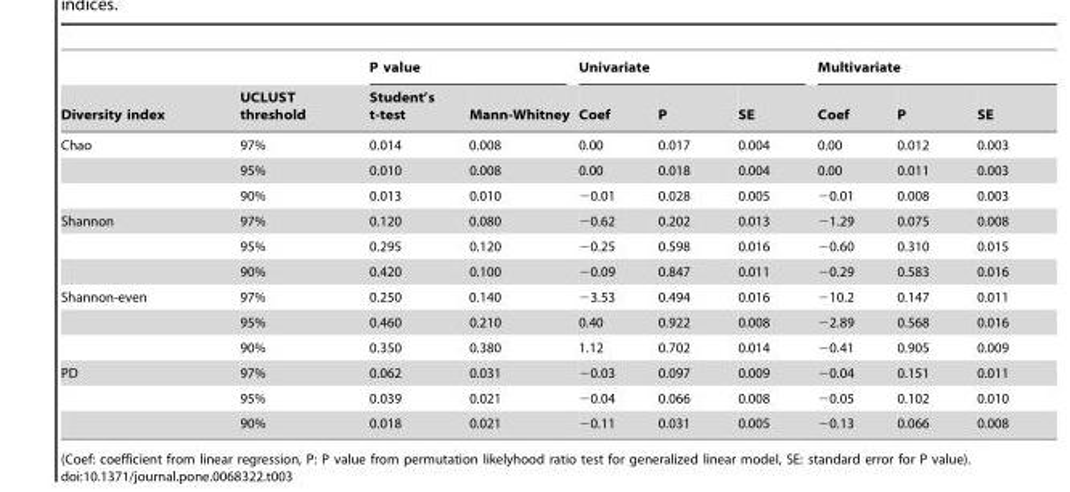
<table><thead><tr><td rowspan="2">Diversity index</td><td rowspan="2">UCLUST threshold</td><td colspan="2">P value</td><td colspan="3">Univariate</td><td colspan="3">Multivariate</td></tr><tr><td>Student’s t-test</td><td>Mann-Whitney</td><td>Coef</td><td>P</td><td>SE</td><td>Coef</td><td>P</td><td>SE</td></tr></thead><tbody><tr><td rowspan="3">Chao</td><td>97%</td><td>0.014</td><td>0.008</td><td>0.00</td><td>0.017</td><td>0.004</td><td>0.00</td><td>0.012</td><td>0.003</td></tr><tr><td>95%</td><td>0.010</td><td>0.008</td><td>0.00</td><td>0.018</td><td>0.004</td><td>0.00</td><td>0.011</td><td>0.003</td></tr><tr><td>90%</td><td>0.013</td><td>0.010</td><td>−0.01</td><td>0.028</td><td>0.005</td><td>−0.01</td><td>0.008</td><td>0.003</td></tr><tr><td rowspan="3">Shannon</td><td>97%</td><td>0.120</td><td>0.080</td><td>−0.62</td><td>0.202</td><td>0.013</td><td>−1.29</td><td>0.075</td><td>0.008</td></tr><tr><td>95%</td><td>0.295</td><td>0.120</td><td>−0.25</td><td>0.598</td><td>0.016</td><td>−0.60</td><td>0.310</td><td>0.015</td></tr><tr><td>90%</td><td>0.420</td><td>0.100</td><td>−0.09</td><td>0.847</td><td>0.011</td><td>−0.29</td><td>0.583</td><td>0.016</td></tr><tr><td rowspan="3">Shannon-even</td><td>97%</td><td>0.250</td><td>0.140</td><td>−3.53</td><td>0.494</td><td>0.016</td><td>−10.2</td><td>0.147</td><td>0.011</td></tr><tr><td>95%</td><td>0.460</td><td>0.210</td><td>0.40</td><td>0.922</td><td>0.008</td><td>−2.89</td><td>0.568</td><td>0.016</td></tr><tr><td>90%</td><td>0.350</td><td>0.380</td><td>1.12</td><td>0.702</td><td>0.014</td><td>−0.41</td><td>0.905</td><td>0.009</td></tr><tr><td rowspan="3">PD</td><td>97%</td><td>0.062</td><td>0.031</td><td>−0.03</td><td>0.097</td><td>0.009</td><td>−0.04</td><td>0.151</td><td>0.011</td></tr><tr><td>95%</td><td>0.039</td><td>0.021</td><td>−0.04</td><td>0.066</td><td>0.008</td><td>−0.05</td><td>0.102</td><td>0.010</td></tr><tr><td>90%</td><td>0.018</td><td>0.021</td><td>−0.11</td><td>0.031</td><td>0.005</td><td>−0.13</td><td>0.066</td><td>0.008</td></tr></tbody></table>